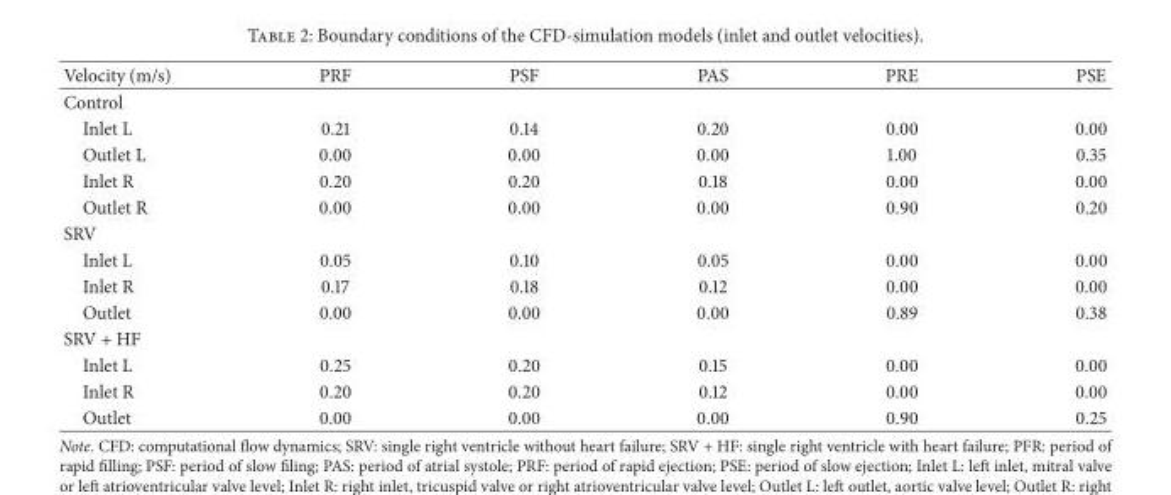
<table><thead><tr><td>Velocity (m/s)</td><td>PRF</td><td>PSF</td><td>PAS</td><td>PRE</td><td>PSE</td></tr></thead><tbody><tr><td colspan="6">Control</td></tr><tr><td>Inlet L</td><td>0.21</td><td>0.14</td><td>0.20</td><td>0.00</td><td>0.00</td></tr><tr><td>Outlet L</td><td>0.00</td><td>0.00</td><td>0.00</td><td>1.00</td><td>0.35</td></tr><tr><td>Inlet R</td><td>0.20</td><td>0.20</td><td>0.18</td><td>0.00</td><td>0.00</td></tr><tr><td>Outlet R</td><td>0.00</td><td>0.00</td><td>0.00</td><td>0.90</td><td>0.20</td></tr><tr><td colspan="6">SRV</td></tr><tr><td>Inlet L</td><td>0.05</td><td>0.10</td><td>0.05</td><td>0.00</td><td>0.00</td></tr><tr><td>Inlet R</td><td>0.17</td><td>0.18</td><td>0.12</td><td>0.00</td><td>0.00</td></tr><tr><td>Outlet</td><td>0.00</td><td>0.00</td><td>0.00</td><td>0.89</td><td>0.38</td></tr><tr><td colspan="6">SRV + HF</td></tr><tr><td>Inlet L</td><td>0.25</td><td>0.20</td><td>0.15</td><td>0.00</td><td>0.00</td></tr><tr><td>Inlet R</td><td>0.20</td><td>0.20</td><td>0.12</td><td>0.00</td><td>0.00</td></tr><tr><td>Outlet</td><td>0.00</td><td>0.00</td><td>0.00</td><td>0.90</td><td>0.25</td></tr></tbody></table>